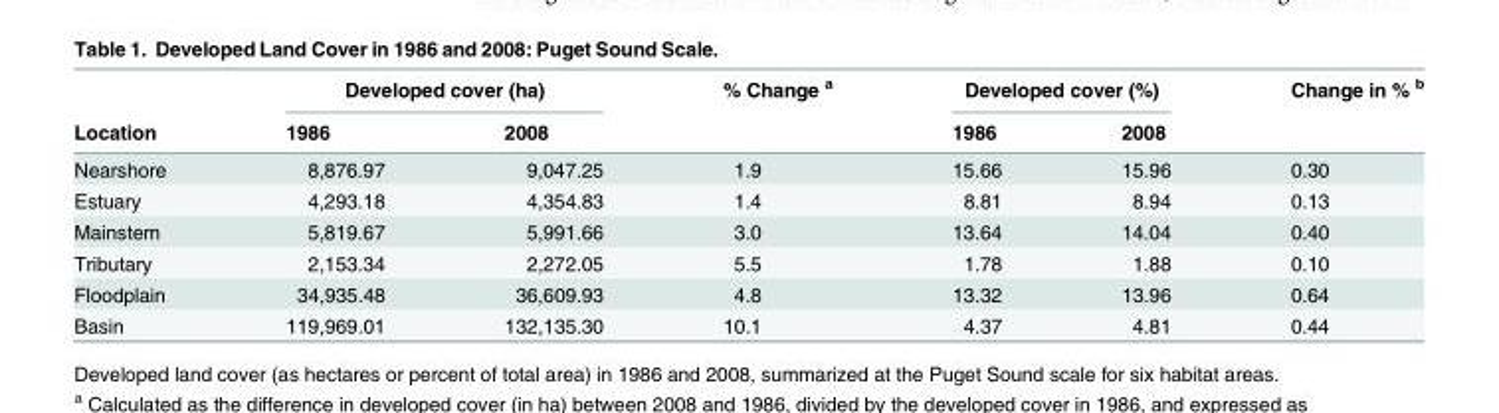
<table><thead><tr><td rowspan="2">Location</td><td colspan="2">Developed cover (ha)</td><td rowspan="2">% Change <sup>a</sup></td><td colspan="2">Developed cover (%)</td><td rowspan="2">Change in % <sup>b</sup></td></tr><tr><td>1986</td><td>2008</td><td>1986</td><td>2008</td></tr></thead><tbody><tr><td>Nearshore</td><td>8,876.97</td><td>9,047.25</td><td>1.9</td><td>15.66</td><td>15.96</td><td>0.30</td></tr><tr><td>Estuary</td><td>4,293.18</td><td>4,354.83</td><td>1.4</td><td>8.81</td><td>8.94</td><td>0.13</td></tr><tr><td>Mainstem</td><td>5,819.67</td><td>5,991.66</td><td>3.0</td><td>13.64</td><td>14.04</td><td>0.40</td></tr><tr><td>Tributary</td><td>2,153.34</td><td>2,272.05</td><td>5.5</td><td>1.78</td><td>1.88</td><td>0.10</td></tr><tr><td>Floodplain</td><td>34,935.48</td><td>36,609.93</td><td>4.8</td><td>13.32</td><td>13.96</td><td>0.64</td></tr><tr><td>Basin</td><td>119,969.01</td><td>132,135.30</td><td>10.1</td><td>4.37</td><td>4.81</td><td>0.44</td></tr></tbody></table>